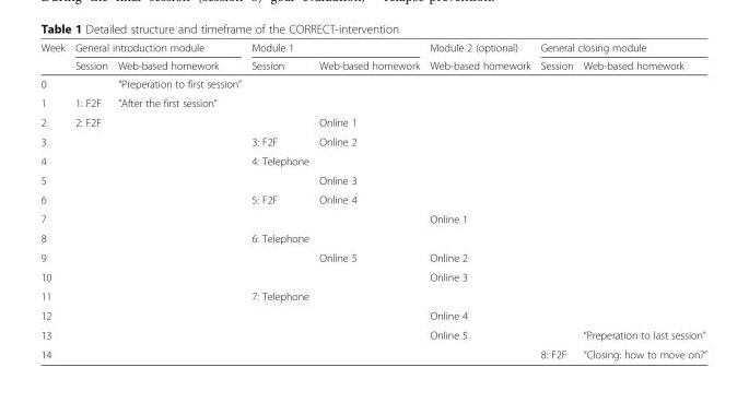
<table><thead><tr><td rowspan="2">Week</td><td colspan="2">General introduction module</td><td colspan="2">Module 1</td><td rowspan="2">Module 2 (optional) Web-based homework</td><td colspan="2">General closing module</td></tr><tr><td>Session</td><td>Web-based homework</td><td>Session</td><td>Web-based homework</td><td>Session</td><td>Web-based homework</td></tr></thead><tbody><tr><td>0</td><td></td><td>“Preperation to first session”</td><td></td><td></td><td></td><td></td><td></td></tr><tr><td>1</td><td>1: F2F</td><td>“After the first session”</td><td></td><td></td><td></td><td></td><td></td></tr><tr><td>2</td><td>2: F2F</td><td></td><td></td><td>Online 1</td><td></td><td></td><td></td></tr><tr><td>3</td><td></td><td></td><td>3: F2F</td><td>Online 2</td><td></td><td></td><td></td></tr><tr><td>4</td><td></td><td></td><td>4: Telephone</td><td></td><td></td><td></td><td></td></tr><tr><td>5</td><td></td><td></td><td></td><td>Online 3</td><td></td><td></td><td></td></tr><tr><td>6</td><td></td><td></td><td>5: F2F</td><td>Online 4</td><td></td><td></td><td></td></tr><tr><td>7</td><td></td><td></td><td></td><td></td><td>Online 1</td><td></td><td></td></tr><tr><td>8</td><td></td><td></td><td>6: Telephone</td><td></td><td></td><td></td><td></td></tr><tr><td>9</td><td></td><td></td><td></td><td>Online 5</td><td>Online 2</td><td></td><td></td></tr><tr><td>10</td><td></td><td></td><td></td><td></td><td>Online 3</td><td></td><td></td></tr><tr><td>11</td><td></td><td></td><td>7: Telephone</td><td></td><td></td><td></td><td></td></tr><tr><td>12</td><td></td><td></td><td></td><td></td><td>Online 4</td><td></td><td></td></tr><tr><td>13</td><td></td><td></td><td></td><td></td><td>Online 5</td><td></td><td>“Preperation to last session”</td></tr><tr><td>14</td><td></td><td></td><td></td><td></td><td></td><td>8: F2F</td><td>“Closing: how to move on?”</td></tr></tbody></table>